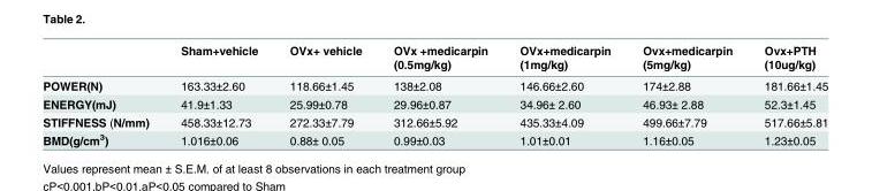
<table><thead><tr><td></td><td>Sham+vehicle</td><td>OVx+ vehicle</td><td>OVx +medicarpin (0.5mg/kg)</td><td>OVx+medicarpin (1mg/kg)</td><td>Ovx+medicarpin (5mg/kg)</td><td>Ovx+PTH (10ug/kg)</td></tr></thead><tbody><tr><td>POWER(N)</td><td>163.33±2.60</td><td>118.66±1.45</td><td>138±2.08</td><td>146.66±2.60</td><td>174±2.88</td><td>181.66±1.45</td></tr><tr><td>ENERGY(mJ)</td><td>41.9±1.33</td><td>25.99±0.78</td><td>29.96±0.87</td><td>34.96± 2.60</td><td>46.93± 2.88</td><td>52.3±1.45</td></tr><tr><td>STIFFNESS (N/mm)</td><td>458.33±12.73</td><td>272.33±7.79</td><td>312.66±5.92</td><td>435.33±4.09</td><td>499.66±7.79</td><td>517.66±5.81</td></tr><tr><td>BMD(g/cm<sup>3</sup>)</td><td>1.016±0.06</td><td>0.88± 0.05</td><td>0.99±0.03</td><td>1.01±0.01</td><td>1.16±0.05</td><td>1.23±0.05</td></tr></tbody></table>